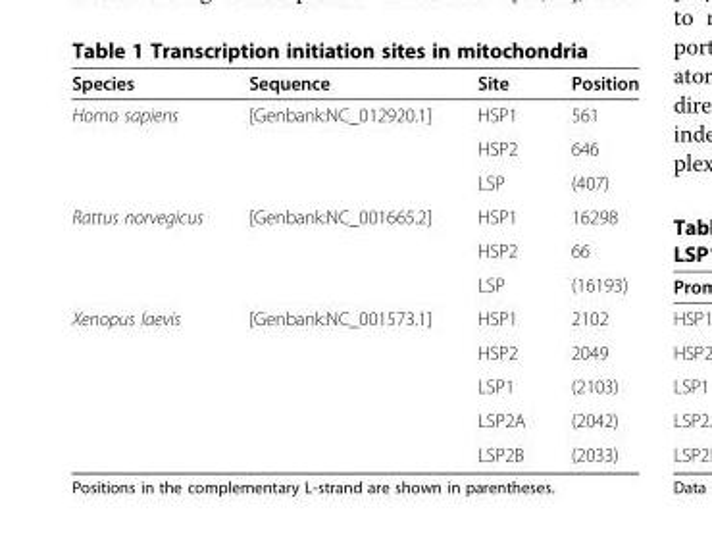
<table><thead><tr><td>Species</td><td>Sequence</td><td>Site</td><td>Position</td></tr></thead><tbody><tr><td rowspan="3">Homo sapiens</td><td rowspan="3">[Genbank:NC_012920.1]</td><td>HSP1</td><td>561</td></tr><tr><td>HSP2</td><td>646</td></tr><tr><td>LSP</td><td>(407)</td></tr><tr><td rowspan="3">Rattus norvegicus</td><td rowspan="3">[Genbank:NC_001665.2]</td><td>HSP1</td><td>16298</td></tr><tr><td>HSP2</td><td>66</td></tr><tr><td>LSP</td><td>(16193)</td></tr><tr><td rowspan="5">Xenopus laevis</td><td>[Genbank:NC_001573.1]</td><td>HSP1</td><td>2102</td></tr><tr><td></td><td>HSP2</td><td>2049</td></tr><tr><td></td><td>LSP1</td><td>(2103)</td></tr><tr><td></td><td>LSP2A</td><td>(2042)</td></tr><tr><td></td><td>LSP2B</td><td>(2033)</td></tr></tbody></table>